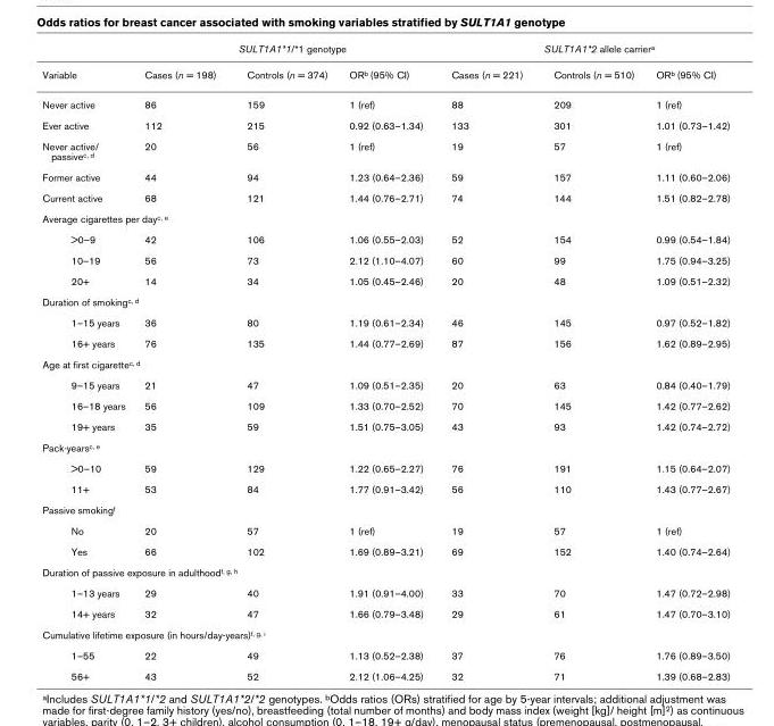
<table><thead><tr><td rowspan="2">Variable</td><td colspan="3">SULT1A1*1/*1 genotype</td><td colspan="3">SULT1A1*2 allele carriera</td></tr><tr><td>Cases (n = 198)</td><td>Controls (n = 374)</td><td>ORb (95% CI)</td><td>Cases (n = 221)</td><td>Controls (n = 510)</td><td>ORb (95% CI)</td></tr></thead><tbody><tr><td>Never active</td><td>86</td><td>159</td><td>1 (ref)</td><td>88</td><td>209</td><td>1 (ref)</td></tr><tr><td>Ever active</td><td>112</td><td>215</td><td>0.92 (0.63–1.34)</td><td>133</td><td>301</td><td>1.01 (0.73–1.42)</td></tr><tr><td>Never active/ passivec, d</td><td>20</td><td>56</td><td>1 (ref)</td><td>19</td><td>57</td><td>1 (ref)</td></tr><tr><td>Former active</td><td>44</td><td>94</td><td>1.23 (0.64–2.36)</td><td>59</td><td>157</td><td>1.11 (0.60–2.06)</td></tr><tr><td>Current active</td><td>68</td><td>121</td><td>1.44 (0.76–2.71)</td><td>74</td><td>144</td><td>1.51 (0.82–2.78)</td></tr><tr><td colspan="7">Average cigarettes per dayc, e</td></tr><tr><td>&gt;0–9</td><td>42</td><td>106</td><td>1.06 (0.55–2.03)</td><td>52</td><td>154</td><td>0.99 (0.54–1.84)</td></tr><tr><td>10–19</td><td>56</td><td>73</td><td>2.12 (1.10–4.07)</td><td>60</td><td>99</td><td>1.75 (0.94–3.25)</td></tr><tr><td>20+</td><td>14</td><td>34</td><td>1.05 (0.45–2.46)</td><td>20</td><td>48</td><td>1.09 (0.51–2.32)</td></tr><tr><td colspan="7">Duration of smokingc, d</td></tr><tr><td>1–15 years</td><td>36</td><td>80</td><td>1.19 (0.61–2.34)</td><td>46</td><td>145</td><td>0.97 (0.52–1.82)</td></tr><tr><td>16+ years</td><td>76</td><td>135</td><td>1.44 (0.77–2.69)</td><td>87</td><td>156</td><td>1.62 (0.89–2.95)</td></tr><tr><td colspan="7">Age at first cigarettec, d</td></tr><tr><td>9–15 years</td><td>21</td><td>47</td><td>1.09 (0.51–2.35)</td><td>20</td><td>63</td><td>0.84 (0.40–1.79)</td></tr><tr><td>16–18 years</td><td>56</td><td>109</td><td>1.33 (0.70–2.52)</td><td>70</td><td>145</td><td>1.42 (0.77–2.62)</td></tr><tr><td>19+ years</td><td>35</td><td>59</td><td>1.51 (0.75–3.05)</td><td>43</td><td>93</td><td>1.42 (0.74–2.72)</td></tr><tr><td colspan="7">Pack-yearsc, e</td></tr><tr><td>&gt;0–10</td><td>59</td><td>129</td><td>1.22 (0.65–2.27)</td><td>76</td><td>191</td><td>1.15 (0.64–2.07)</td></tr><tr><td>11+</td><td>53</td><td>84</td><td>1.77 (0.91–3.42)</td><td>56</td><td>110</td><td>1.43 (0.77–2.67)</td></tr><tr><td colspan="7">Passive smokingf</td></tr><tr><td>No</td><td>20</td><td>57</td><td>1 (ref)</td><td>19</td><td>57</td><td>1 (ref)</td></tr><tr><td>Yes</td><td>66</td><td>102</td><td>1.69 (0.89–3.21)</td><td>69</td><td>152</td><td>1.40 (0.74–2.64)</td></tr><tr><td colspan="7">Duration of passive exposure in adulthoodf, g, h</td></tr><tr><td>1–13 years</td><td>29</td><td>40</td><td>1.91 (0.91–4.00)</td><td>33</td><td>70</td><td>1.47 (0.72–2.98)</td></tr><tr><td>14+ years</td><td>32</td><td>47</td><td>1.66 (0.79–3.48)</td><td>29</td><td>61</td><td>1.47 (0.70–3.10)</td></tr><tr><td colspan="7">Cumulative lifetime exposure (in hours/day-years)f, g, i</td></tr><tr><td>1–55</td><td>22</td><td>49</td><td>1.13 (0.52–2.38)</td><td>37</td><td>76</td><td>1.76 (0.89–3.50)</td></tr><tr><td>56+</td><td>43</td><td>52</td><td>2.12 (1.06–4.25)</td><td>32</td><td>71</td><td>1.39 (0.68–2.83)</td></tr></tbody></table>